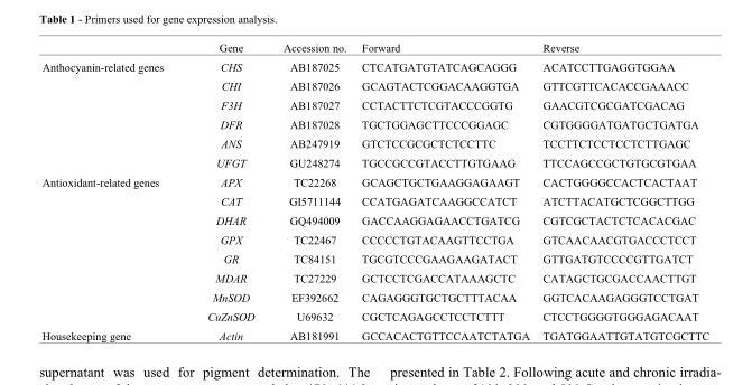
<table><thead><tr><td></td><td>Gene</td><td>Accession no.</td><td>Forward</td><td>Reverse</td></tr></thead><tbody><tr><td rowspan="6">Anthocyanin-related genes</td><td>CHS</td><td>AB187025</td><td>CTCATGATGTATCAGCAGGG</td><td>ACATCCTTGAGGTGGAA</td></tr><tr><td>CHI</td><td>AB187026</td><td>GCAGTACTCGGACAAGGTGA</td><td>GTTCGTTCACACCGAAACC</td></tr><tr><td>F3H</td><td>AB187027</td><td>CCTACTTCTCGTACCCGGTG</td><td>GAACGTCGCGATCGACAG</td></tr><tr><td>DFR</td><td>AB187028</td><td>TGCTGGAGCTTCCCGGAGC</td><td>CGTGGGGATGATGCTGATGA</td></tr><tr><td>ANS</td><td>AB247919</td><td>GTCTCCGCGCTCTCCTTC</td><td>TCCTTCTCCTCCTCTTGAGC</td></tr><tr><td>UFGT</td><td>GU248274</td><td>TGCCGCCGTACCTTGTGAAG</td><td>TTCCAGCCGCTGTGCGTGAA</td></tr><tr><td rowspan="8">Antioxidant-related genes</td><td>APX</td><td>TC22268</td><td>GCAGCTGCTGAAGGAGAAGT</td><td>CACTGGGGCCACTCACTAAT</td></tr><tr><td>CAT</td><td>GI5711144</td><td>CCATGAGATCAAGGCCATCT</td><td>ATCTTACATGCTCGGCTTGG</td></tr><tr><td>DHAR</td><td>GQ494009</td><td>GACCAAGGAGAACCTGATCG</td><td>CGTCGCTACTCTCACACGAC</td></tr><tr><td>GPX</td><td>TC22467</td><td>CCCCCTGTACAAGTTCCTGA</td><td>GTCAACAACGTGACCCTCCT</td></tr><tr><td>GR</td><td>TC84151</td><td>TGCGTCCCGAAGAAGATACT</td><td>GTTGATGTCCCCGTTGATCT</td></tr><tr><td>MDAR</td><td>TC27229</td><td>GCTCCTCGACCATAAAGCTC</td><td>CATAGCTGCGACCAACTTGT</td></tr><tr><td>MnSOD</td><td>EF392662</td><td>CAGAGGGTGCTGCTTTACAA</td><td>GGTCACAAGAGGGTCCTGAT</td></tr><tr><td>CuZnSOD</td><td>U69632</td><td>CGCTCAGAGCCTCCTCTTT</td><td>CTCCTGGGGTGGGAGACAAT</td></tr><tr><td>Housekeeping gene</td><td>Actin</td><td>AB181991</td><td>GCCACACTGTTCCAATCTATGA</td><td>TGATGGAATTGTATGTCGCTTC</td></tr></tbody></table>